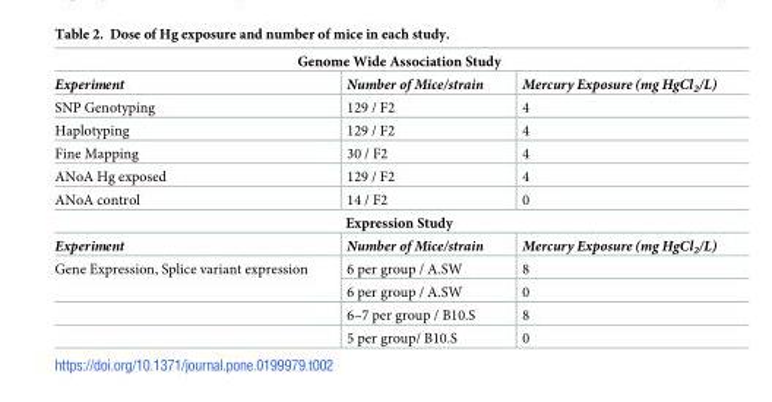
<table><tbody><tr><td colspan="3">Genome Wide Association Study</td></tr><tr><td>Experiment</td><td>Number of Mice/strain</td><td>Mercury Exposure (mg HgCl<sub>2</sub>/L)</td></tr><tr><td>SNP Genotyping</td><td>129 / F2</td><td>4</td></tr><tr><td>Haplotyping</td><td>129 / F2</td><td>4</td></tr><tr><td>Fine Mapping</td><td>30 / F2</td><td>4</td></tr><tr><td>ANoA Hg exposed</td><td>129 / F2</td><td>4</td></tr><tr><td>ANoA control</td><td>14 / F2</td><td>0</td></tr><tr><td colspan="3">Expression Study</td></tr><tr><td>Experiment</td><td>Number of Mice/strain</td><td>Mercury Exposure (mg HgCl<sub>2</sub>/L)</td></tr><tr><td rowspan="4">Gene Expression, Splice variant expression</td><td>6 per group / A.SW</td><td>8</td></tr><tr><td>6 per group / A.SW</td><td>0</td></tr><tr><td>6–7 per group / B10.S</td><td>8</td></tr><tr><td>5 per group/ B10.S</td><td>0</td></tr></tbody></table>